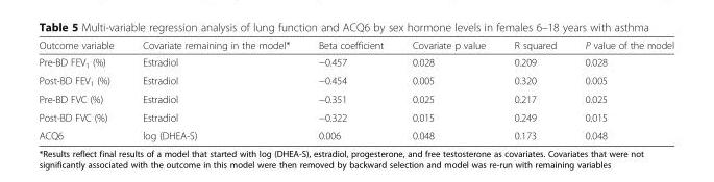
<table><thead><tr><td>Outcome variable</td><td>Covariate remaining in the model*</td><td>Beta coefficient</td><td>Covariate p value</td><td>R squared</td><td>P value of the model</td></tr></thead><tbody><tr><td>Pre-BD FEV<sub>1</sub> (%)</td><td>Estradiol</td><td>−0.457</td><td>0.028</td><td>0.209</td><td>0.028</td></tr><tr><td>Post-BD FEV<sub>1</sub> (%)</td><td>Estradiol</td><td>−0.454</td><td>0.005</td><td>0.320</td><td>0.005</td></tr><tr><td>Pre-BD FVC (%)</td><td>Estradiol</td><td>−0.351</td><td>0.025</td><td>0.217</td><td>0.025</td></tr><tr><td>Post-BD FVC (%)</td><td>Estradiol</td><td>−0.322</td><td>0.015</td><td>0.249</td><td>0.015</td></tr><tr><td>ACQ6</td><td>log (DHEA-S)</td><td>0.006</td><td>0.048</td><td>0.173</td><td>0.048</td></tr></tbody></table>